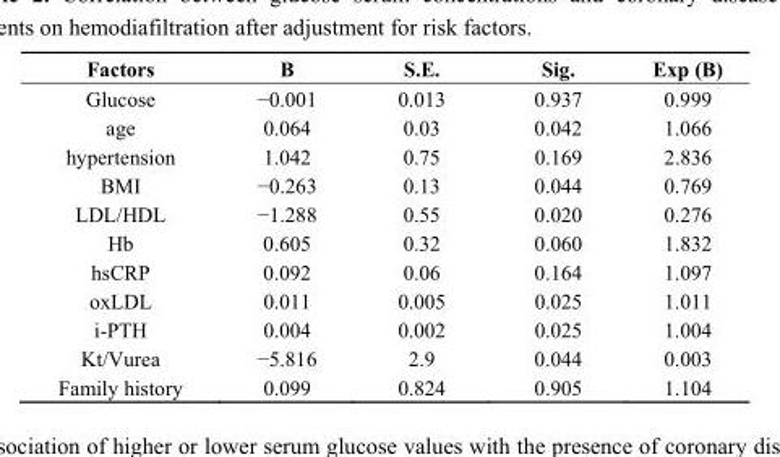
<table><thead><tr><td>Factors</td><td>B</td><td>S.E.</td><td>Sig.</td><td>Exp (B)</td></tr></thead><tbody><tr><td>Glucose</td><td>−0.001</td><td>0.013</td><td>0.937</td><td>0.999</td></tr><tr><td>age</td><td>0.064</td><td>0.03</td><td>0.042</td><td>1.066</td></tr><tr><td>hypertension</td><td>1.042</td><td>0.75</td><td>0.169</td><td>2.836</td></tr><tr><td>BMI</td><td>−0.263</td><td>0.13</td><td>0.044</td><td>0.769</td></tr><tr><td>LDL/HDL</td><td>−1.288</td><td>0.55</td><td>0.020</td><td>0.276</td></tr><tr><td>Hb</td><td>0.605</td><td>0.32</td><td>0.060</td><td>1.832</td></tr><tr><td>hsCRP</td><td>0.092</td><td>0.06</td><td>0.164</td><td>1.097</td></tr><tr><td>oxLDL</td><td>0.011</td><td>0.005</td><td>0.025</td><td>1.011</td></tr><tr><td>i-PTH</td><td>0.004</td><td>0.002</td><td>0.025</td><td>1.004</td></tr><tr><td>Kt/Vurea</td><td>−5.816</td><td>2.9</td><td>0.044</td><td>0.003</td></tr><tr><td>Family history</td><td>0.099</td><td>0.824</td><td>0.905</td><td>1.104</td></tr></tbody></table>